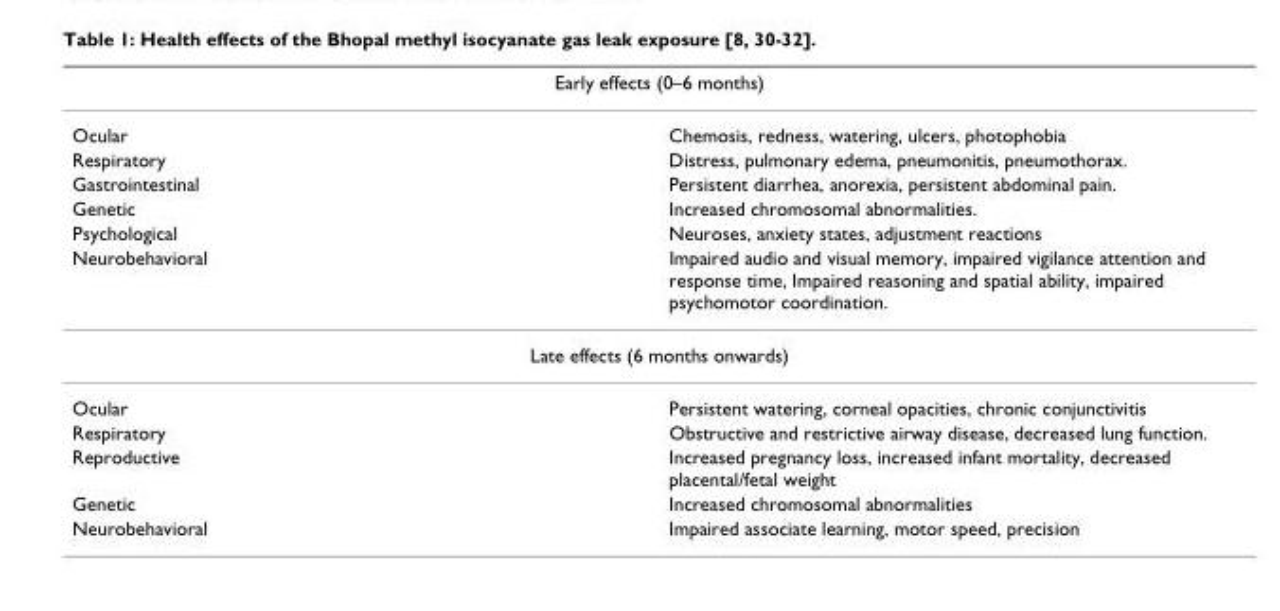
<table><thead><tr><td colspan="2">Early effects (0–6 months)</td></tr><tr><td>Ocular</td><td>Chemosis, redness, watering, ulcers, photophobia</td></tr></thead><tbody><tr><td>Respiratory</td><td>Distress, pulmonary edema, pneumonitis, pneumothorax.</td></tr><tr><td>Gastrointestinal</td><td>Persistent diarrhea, anorexia, persistent abdominal pain.</td></tr><tr><td>Genetic</td><td>Increased chromosomal abnormalities.</td></tr><tr><td>Psychological</td><td>Neuroses, anxiety states, adjustment reactions</td></tr><tr><td>Neurobehavioral</td><td>Impaired audio and visual memory, impaired vigilance attention and response time, Impaired reasoning and spatial ability, impaired psychomotor coordination.</td></tr><tr><td colspan="2">Late effects (6 months onwards)</td></tr><tr><td>Ocular</td><td>Persistent watering, corneal opacities, chronic conjunctivitis</td></tr><tr><td>Respiratory</td><td>Obstructive and restrictive airway disease, decreased lung function.</td></tr><tr><td>Reproductive</td><td>Increased pregnancy loss, increased infant mortality, decreased placental/fetal weight</td></tr><tr><td>Genetic</td><td>Increased chromosomal abnormalities</td></tr><tr><td>Neurobehavioral</td><td>Impaired associate learning, motor speed, precision</td></tr></tbody></table>